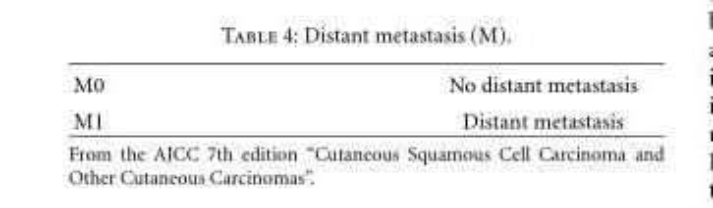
<table><tbody><tr><td>M0</td><td>No distant metastasis</td></tr><tr><td>M1</td><td>Distant metastasis</td></tr></tbody></table>